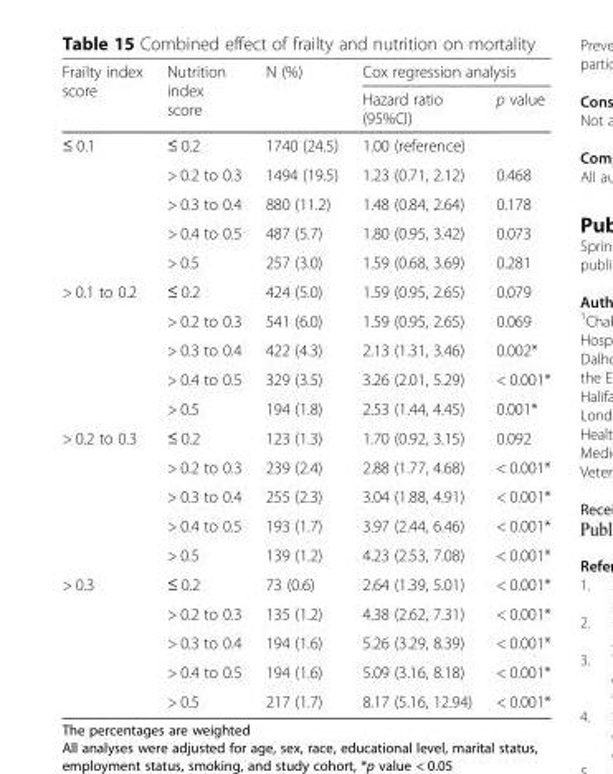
<table><thead><tr><td rowspan="2">Frailty index score</td><td rowspan="2">Nutrition index score</td><td rowspan="2">N (%)</td><td colspan="2">Cox regression analysis</td></tr><tr><td>Hazard ratio (95%CI)</td><td>p value</td></tr></thead><tbody><tr><td rowspan="5">≤ 0.1</td><td>≤ 0.2</td><td>1740 (24.5)</td><td>1.00 (reference)</td><td></td></tr><tr><td>&gt; 0.2 to 0.3</td><td>1494 (19.5)</td><td>1.23 (0.71, 2.12)</td><td>0.468</td></tr><tr><td>&gt; 0.3 to 0.4</td><td>880 (11.2)</td><td>1.48 (0.84, 2.64)</td><td>0.178</td></tr><tr><td>&gt; 0.4 to 0.5</td><td>487 (5.7)</td><td>1.80 (0.95, 3.42)</td><td>0.073</td></tr><tr><td>&gt; 0.5</td><td>257 (3.0)</td><td>1.59 (0.68, 3.69)</td><td>0.281</td></tr><tr><td rowspan="5">&gt; 0.1 to 0.2</td><td>≤ 0.2</td><td>424 (5.0)</td><td>1.59 (0.95, 2.65)</td><td>0.079</td></tr><tr><td>&gt; 0.2 to 0.3</td><td>541 (6.0)</td><td>1.59 (0.95, 2.65)</td><td>0.069</td></tr><tr><td>&gt; 0.3 to 0.4</td><td>422 (4.3)</td><td>2.13 (1.31, 3.46)</td><td>0.002*</td></tr><tr><td>&gt; 0.4 to 0.5</td><td>329 (3.5)</td><td>3.26 (2.01, 5.29)</td><td>&lt; 0.001*</td></tr><tr><td>&gt; 0.5</td><td>194 (1.8)</td><td>2.53 (1.44, 4.45)</td><td>0.001*</td></tr><tr><td rowspan="5">&gt; 0.2 to 0.3</td><td>≤ 0.2</td><td>123 (1.3)</td><td>1.70 (0.92, 3.15)</td><td>0.092</td></tr><tr><td>&gt; 0.2 to 0.3</td><td>239 (2.4)</td><td>2.88 (1.77, 4.68)</td><td>&lt; 0.001*</td></tr><tr><td>&gt; 0.3 to 0.4</td><td>255 (2.3)</td><td>3.04 (1.88, 4.91)</td><td>&lt; 0.001*</td></tr><tr><td>&gt; 0.4 to 0.5</td><td>193 (1.7)</td><td>3.97 (2.44, 6.46)</td><td>&lt; 0.001*</td></tr><tr><td>&gt; 0.5</td><td>139 (1.2)</td><td>4.23 (2.53, 7.08)</td><td>&lt; 0.001*</td></tr><tr><td rowspan="5">&gt; 0.3</td><td>≤ 0.2</td><td>73 (0.6)</td><td>2.64 (1.39, 5.01)</td><td>&lt; 0.001*</td></tr><tr><td>&gt; 0.2 to 0.3</td><td>135 (1.2)</td><td>4.38 (2.62, 7.31)</td><td>&lt; 0.001*</td></tr><tr><td>&gt; 0.3 to 0.4</td><td>194 (1.6)</td><td>5.26 (3.29, 8.39)</td><td>&lt; 0.001*</td></tr><tr><td>&gt; 0.4 to 0.5</td><td>194 (1.6)</td><td>5.09 (3.16, 8.18)</td><td>&lt; 0.001*</td></tr><tr><td>&gt; 0.5</td><td>217 (1.7)</td><td>8.17 (5.16, 12.94)</td><td>&lt; 0.001*</td></tr></tbody></table>